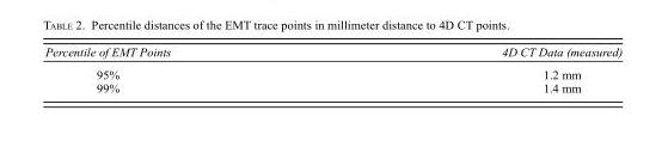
<table><thead><tr><td>Percentile of EMT Points</td><td>4D CT Data (measured)</td></tr></thead><tbody><tr><td>95%</td><td>1.2 mm</td></tr><tr><td>99%</td><td>1.4 mm</td></tr></tbody></table>